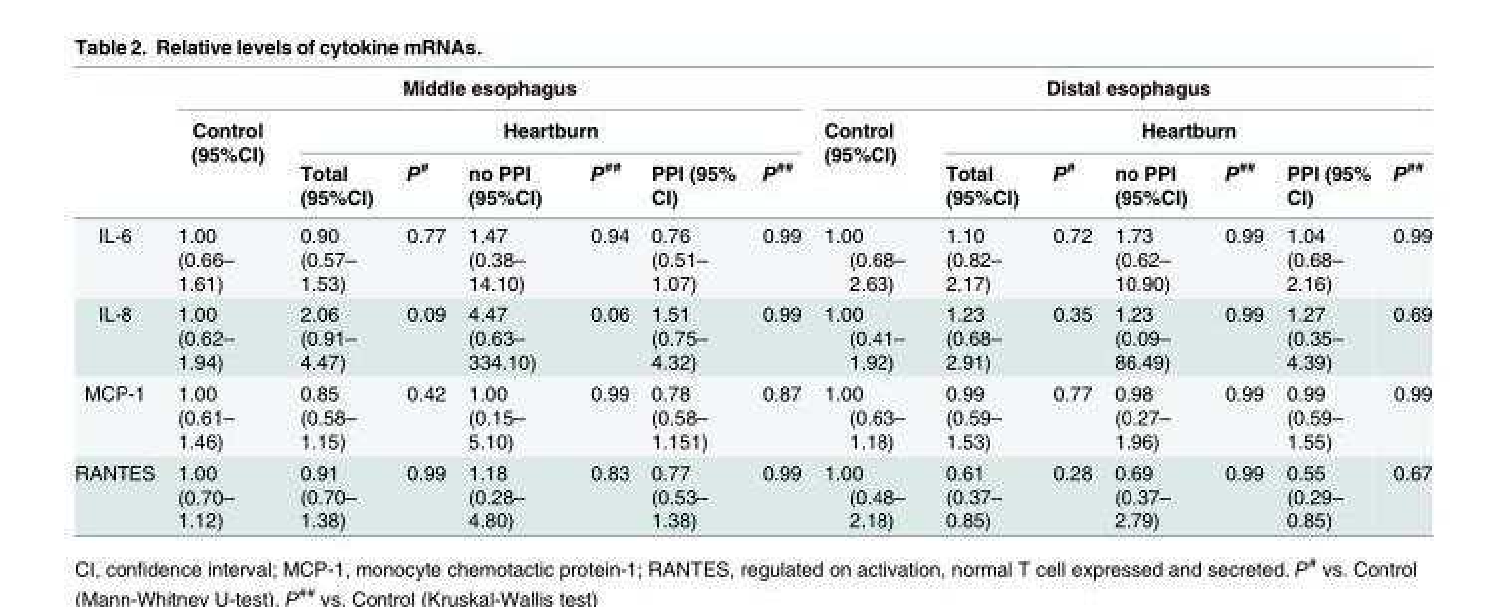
<table><thead><tr><td rowspan="3"></td><td colspan="7">Middle esophagus</td><td colspan="7">Distal esophagus</td></tr><tr><td rowspan="2">Control (95%CI)</td><td colspan="6">Heartburn</td><td rowspan="2">Control (95%CI)</td><td colspan="6">Heartburn</td></tr><tr><td>Total (95%CI)</td><td>P<sup>#</sup></td><td>no PPI (95%CI)</td><td>P<sup>##</sup></td><td>PPI (95% CI)</td><td>P<sup>##</sup></td><td>Total (95%CI)</td><td>P<sup>#</sup></td><td>no PPI (95%CI)</td><td>P<sup>##</sup></td><td>PPI (95% CI)</td><td>P<sup>##</sup></td></tr></thead><tbody><tr><td>IL-6</td><td>1.00 (0.66– 1.61)</td><td>0.90 (0.57– 1.53)</td><td>0.77</td><td>1.47 (0.38– 14.10)</td><td>0.94</td><td>0.76 (0.51– 1.07)</td><td>0.99</td><td>1.00 (0.68– 2.63)</td><td>1.10 (0.82– 2.17)</td><td>0.72</td><td>1.73 (0.62– 10.90)</td><td>0.99</td><td>1.04 (0.68– 2.16)</td><td>0.99</td></tr><tr><td>IL-8</td><td>1.00 (0.62– 1.94)</td><td>2.06 (0.91– 4.47)</td><td>0.09</td><td>4.47 (0.63– 334.10)</td><td>0.06</td><td>1.51 (0.75– 4.32)</td><td>0.99</td><td>1.00 (0.41– 1.92)</td><td>1.23 (0.68– 2.91)</td><td>0.35</td><td>1.23 (0.09– 86.49)</td><td>0.99</td><td>1.27 (0.35– 4.39)</td><td>0.69</td></tr><tr><td>MCP-1</td><td>1.00 (0.61– 1.46)</td><td>0.85 (0.58– 1.15)</td><td>0.42</td><td>1.00 (0.15– 5.10)</td><td>0.99</td><td>0.78 (0.58– 1.151)</td><td>0.87</td><td>1.00 (0.63– 1.18)</td><td>0.99 (0.59– 1.53)</td><td>0.77</td><td>0.98 (0.27– 1.96)</td><td>0.99</td><td>0.99 (0.59– 1.55)</td><td>0.99</td></tr><tr><td>RANTES</td><td>1.00 (0.70– 1.12)</td><td>0.91 (0.70– 1.38)</td><td>0.99</td><td>1.18 (0.28– 4.80)</td><td>0.83</td><td>0.77 (0.53– 1.38)</td><td>0.99</td><td>1.00 (0.48– 2.18)</td><td>0.61 (0.37– 0.85)</td><td>0.28</td><td>0.69 (0.37– 2.79)</td><td>0.99</td><td>0.55 (0.29– 0.85)</td><td>0.67</td></tr></tbody></table>